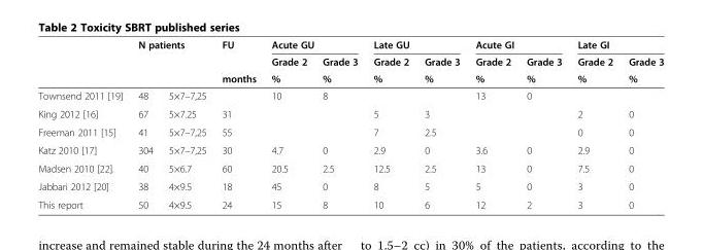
<table><thead><tr><td rowspan="3"></td><td colspan="2">N patients</td><td rowspan="3">FU months</td><td colspan="2">Acute GU</td><td colspan="2">Late GU</td><td colspan="2">Acute GI</td><td colspan="2">Late GI</td></tr><tr><td rowspan="2"></td><td rowspan="2"></td><td rowspan="2">Grade 2 %</td><td rowspan="2">Grade 3 %</td><td rowspan="2">Grade 2 %</td><td rowspan="2">Grade 3 %</td><td rowspan="2">Grade 2 %</td><td rowspan="2">Grade 3 %</td><td rowspan="2">Grade 2 %</td><td rowspan="2">Grade 3 %</td></tr><tr></tr></thead><tbody><tr><td>Townsend 2011 [19]</td><td>48</td><td>5×7–7,25</td><td></td><td>10</td><td>8</td><td></td><td></td><td>13</td><td>0</td><td></td><td></td></tr><tr><td>King 2012 [16]</td><td>67</td><td>5×7.25</td><td>31</td><td></td><td></td><td>5</td><td>3</td><td></td><td></td><td>2</td><td>0</td></tr><tr><td>Freeman 2011 [15]</td><td>41</td><td>5×7–7,25</td><td>55</td><td></td><td></td><td>7</td><td>2.5</td><td></td><td></td><td>0</td><td>0</td></tr><tr><td>Katz 2010 [17]</td><td>304</td><td>5×7–7,25</td><td>30</td><td>4.7</td><td>0</td><td>2.9</td><td>0</td><td>3.6</td><td>0</td><td>2.9</td><td>0</td></tr><tr><td>Madsen 2010 [22].</td><td>40</td><td>5×6.7</td><td>60</td><td>20.5</td><td>2.5</td><td>12.5</td><td>2.5</td><td>13</td><td>0</td><td>7.5</td><td>0</td></tr><tr><td>Jabbari 2012 [20]</td><td>38</td><td>4×9.5</td><td>18</td><td>45</td><td>0</td><td>8</td><td>5</td><td>5</td><td>0</td><td>3</td><td>0</td></tr><tr><td>This report</td><td>50</td><td>4×9.5</td><td>24</td><td>15</td><td>8</td><td>10</td><td>6</td><td>12</td><td>2</td><td>3</td><td>0</td></tr></tbody></table>